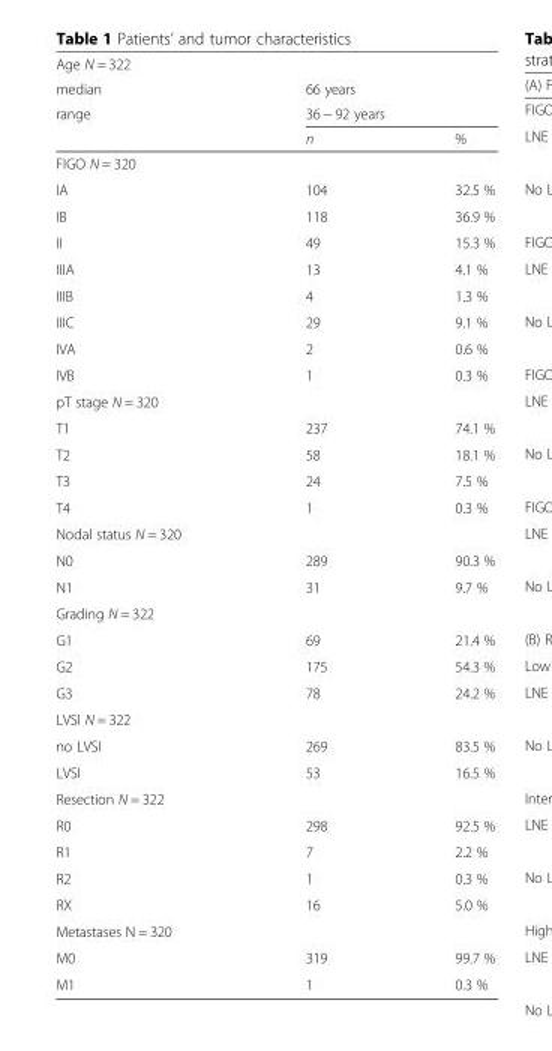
<table><thead><tr><td rowspan="4">Age N = 322 median range</td><td></td><td></td></tr><tr><td rowspan="2" colspan="2">66 years 36 − 92 years</td></tr><tr></tr><tr><td>n</td><td>%</td></tr></thead><tbody><tr><td colspan="3">FIGO N = 320</td></tr><tr><td>IA</td><td>104</td><td>32.5 %</td></tr><tr><td>IB</td><td>118</td><td>36.9 %</td></tr><tr><td>II</td><td>49</td><td>15.3 %</td></tr><tr><td>IIIA</td><td>13</td><td>4.1 %</td></tr><tr><td>IIIB</td><td>4</td><td>1.3 %</td></tr><tr><td>IIIC</td><td>29</td><td>9.1 %</td></tr><tr><td>IVA</td><td>2</td><td>0.6 %</td></tr><tr><td>IVB</td><td>1</td><td>0.3 %</td></tr><tr><td colspan="3">pT stage N = 320</td></tr><tr><td>T1</td><td>237</td><td>74.1 %</td></tr><tr><td>T2</td><td>58</td><td>18.1 %</td></tr><tr><td>T3</td><td>24</td><td>7.5 %</td></tr><tr><td>T4</td><td>1</td><td>0.3 %</td></tr><tr><td colspan="3">Nodal status N = 320</td></tr><tr><td>N0</td><td>289</td><td>90.3 %</td></tr><tr><td>N1</td><td>31</td><td>9.7 %</td></tr><tr><td colspan="3">Grading N = 322</td></tr><tr><td>G1</td><td>69</td><td>21.4 %</td></tr><tr><td>G2</td><td>175</td><td>54.3 %</td></tr><tr><td>G3</td><td>78</td><td>24.2 %</td></tr><tr><td colspan="3">LVSI N = 322</td></tr><tr><td>no LVSI</td><td>269</td><td>83.5 %</td></tr><tr><td>LVSI</td><td>53</td><td>16.5 %</td></tr><tr><td colspan="3">Resection N = 322</td></tr><tr><td>R0</td><td>298</td><td>92.5 %</td></tr><tr><td>R1</td><td>7</td><td>2.2 %</td></tr><tr><td>R2</td><td>1</td><td>0.3 %</td></tr><tr><td>RX</td><td>16</td><td>5.0 %</td></tr><tr><td colspan="3">Metastases N = 320</td></tr><tr><td>M0</td><td>319</td><td>99.7 %</td></tr><tr><td>M1</td><td>1</td><td>0.3 %</td></tr></tbody></table>